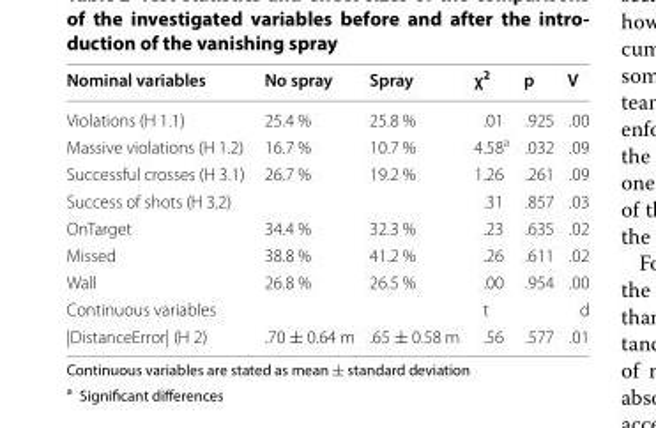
<table><thead><tr><td>Nominal variables</td><td>No spray</td><td>Spray</td><td>χ<sup>2</sup></td><td>p</td><td>V</td></tr></thead><tbody><tr><td>Violations (H 1.1)</td><td>25.4 %</td><td>25.8 %</td><td>.01</td><td>.925</td><td>.00</td></tr><tr><td>Massive violations (H 1.2)</td><td>16.7 %</td><td>10.7 %</td><td>4.58<sup>a</sup></td><td>.032</td><td>.09</td></tr><tr><td>Successful crosses (H 3.1)</td><td>26.7 %</td><td>19.2 %</td><td>1.26</td><td>.261</td><td>.09</td></tr><tr><td>Success of shots (H 3.2)</td><td></td><td></td><td>.31</td><td>.857</td><td>.03</td></tr><tr><td>OnTarget</td><td>34.4 %</td><td>32.3 %</td><td>.23</td><td>.635</td><td>.02</td></tr><tr><td>Missed</td><td>38.8 %</td><td>41.2 %</td><td>.26</td><td>.611</td><td>.02</td></tr><tr><td>Wall</td><td>26.8 %</td><td>26.5 %</td><td>.00</td><td>.954</td><td>.00</td></tr><tr><td>Continuous variables</td><td></td><td></td><td>t</td><td></td><td>d</td></tr><tr><td>|DistanceError| (H 2)</td><td>.70 ± 0.64 m</td><td>.65 ± 0.58 m</td><td>.56</td><td>.577</td><td>.01</td></tr></tbody></table>